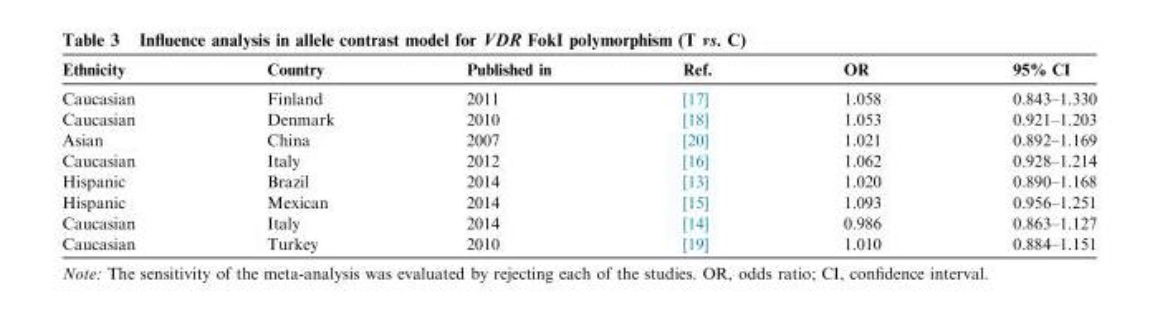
<table><thead><tr><td>Ethnicity</td><td>Country</td><td>Published in</td><td>Ref.</td><td>OR</td><td>95% CI</td></tr></thead><tbody><tr><td>Caucasian</td><td>Finland</td><td>2011</td><td>[17]</td><td>1.058</td><td>0.843–1.330</td></tr><tr><td>Caucasian</td><td>Denmark</td><td>2010</td><td>[18]</td><td>1.053</td><td>0.921–1.203</td></tr><tr><td>Asian</td><td>China</td><td>2007</td><td>[20]</td><td>1.021</td><td>0.892–1.169</td></tr><tr><td>Caucasian</td><td>Italy</td><td>2012</td><td>[16]</td><td>1.062</td><td>0.928–1.214</td></tr><tr><td>Hispanic</td><td>Brazil</td><td>2014</td><td>[13]</td><td>1.020</td><td>0.890–1.168</td></tr><tr><td>Hispanic</td><td>Mexican</td><td>2014</td><td>[15]</td><td>1.093</td><td>0.956–1.251</td></tr><tr><td>Caucasian</td><td>Italy</td><td>2014</td><td>[14]</td><td>0.986</td><td>0.863–1.127</td></tr><tr><td>Caucasian</td><td>Turkey</td><td>2010</td><td>[19]</td><td>1.010</td><td>0.884–1.151</td></tr></tbody></table>